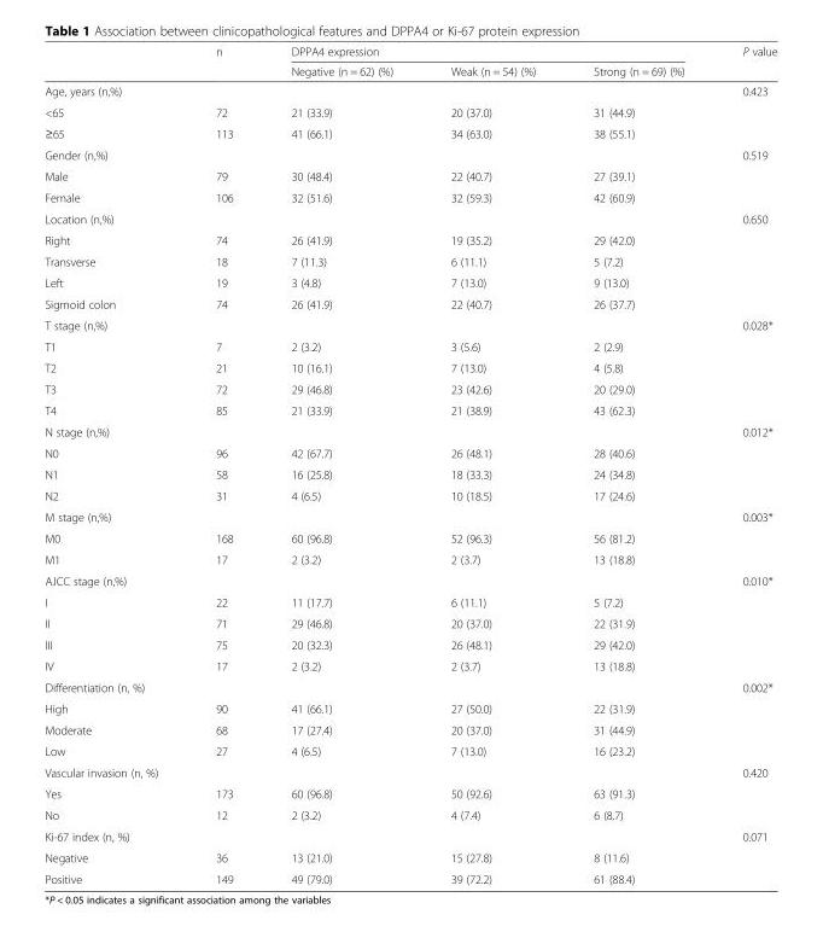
<table><thead><tr><td rowspan="2"></td><td rowspan="2">n</td><td colspan="3">DPPA4 expression</td><td rowspan="2">P value</td></tr><tr><td>Negative (n = 62) (%)</td><td>Weak (n = 54) (%)</td><td>Strong (n = 69) (%)</td></tr></thead><tbody><tr><td>Age, years (n,%)</td><td></td><td></td><td></td><td></td><td>0.423</td></tr><tr><td>&lt;65</td><td>72</td><td>21 (33.9)</td><td>20 (37.0)</td><td>31 (44.9)</td><td></td></tr><tr><td>≥65</td><td>113</td><td>41 (66.1)</td><td>34 (63.0)</td><td>38 (55.1)</td><td></td></tr><tr><td>Gender (n,%)</td><td></td><td></td><td></td><td></td><td>0.519</td></tr><tr><td>Male</td><td>79</td><td>30 (48.4)</td><td>22 (40.7)</td><td>27 (39.1)</td><td></td></tr><tr><td>Female</td><td>106</td><td>32 (51.6)</td><td>32 (59.3)</td><td>42 (60.9)</td><td></td></tr><tr><td>Location (n,%)</td><td></td><td></td><td></td><td></td><td>0.650</td></tr><tr><td>Right</td><td>74</td><td>26 (41.9)</td><td>19 (35.2)</td><td>29 (42.0)</td><td></td></tr><tr><td>Transverse</td><td>18</td><td>7 (11.3)</td><td>6 (11.1)</td><td>5 (7.2)</td><td></td></tr><tr><td>Left</td><td>19</td><td>3 (4.8)</td><td>7 (13.0)</td><td>9 (13.0)</td><td></td></tr><tr><td>Sigmoid colon</td><td>74</td><td>26 (41.9)</td><td>22 (40.7)</td><td>26 (37.7)</td><td></td></tr><tr><td>T stage (n,%)</td><td></td><td></td><td></td><td></td><td>0.028*</td></tr><tr><td>T1</td><td>7</td><td>2 (3.2)</td><td>3 (5.6)</td><td>2 (2.9)</td><td></td></tr><tr><td>T2</td><td>21</td><td>10 (16.1)</td><td>7 (13.0)</td><td>4 (5.8)</td><td></td></tr><tr><td>T3</td><td>72</td><td>29 (46.8)</td><td>23 (42.6)</td><td>20 (29.0)</td><td></td></tr><tr><td>T4</td><td>85</td><td>21 (33.9)</td><td>21 (38.9)</td><td>43 (62.3)</td><td></td></tr><tr><td>N stage (n,%)</td><td></td><td></td><td></td><td></td><td>0.012*</td></tr><tr><td>N0</td><td>96</td><td>42 (67.7)</td><td>26 (48.1)</td><td>28 (40.6)</td><td></td></tr><tr><td>N1</td><td>58</td><td>16 (25.8)</td><td>18 (33.3)</td><td>24 (34.8)</td><td></td></tr><tr><td>N2</td><td>31</td><td>4 (6.5)</td><td>10 (18.5)</td><td>17 (24.6)</td><td></td></tr><tr><td>M stage (n,%)</td><td></td><td></td><td></td><td></td><td>0.003*</td></tr><tr><td>M0</td><td>168</td><td>60 (96.8)</td><td>52 (96.3)</td><td>56 (81.2)</td><td></td></tr><tr><td>M1</td><td>17</td><td>2 (3.2)</td><td>2 (3.7)</td><td>13 (18.8)</td><td></td></tr><tr><td>AJCC stage (n,%)</td><td></td><td></td><td></td><td></td><td>0.010*</td></tr><tr><td>I</td><td>22</td><td>11 (17.7)</td><td>6 (11.1)</td><td>5 (7.2)</td><td></td></tr><tr><td>II</td><td>71</td><td>29 (46.8)</td><td>20 (37.0)</td><td>22 (31.9)</td><td></td></tr><tr><td>III</td><td>75</td><td>20 (32.3)</td><td>26 (48.1)</td><td>29 (42.0)</td><td></td></tr><tr><td>IV</td><td>17</td><td>2 (3.2)</td><td>2 (3.7)</td><td>13 (18.8)</td><td></td></tr><tr><td>Differentiation (n, %)</td><td></td><td></td><td></td><td></td><td>0.002*</td></tr><tr><td>High</td><td>90</td><td>41 (66.1)</td><td>27 (50.0)</td><td>22 (31.9)</td><td></td></tr><tr><td>Moderate</td><td>68</td><td>17 (27.4)</td><td>20 (37.0)</td><td>31 (44.9)</td><td></td></tr><tr><td>Low</td><td>27</td><td>4 (6.5)</td><td>7 (13.0)</td><td>16 (23.2)</td><td></td></tr><tr><td>Vascular invasion (n, %)</td><td></td><td></td><td></td><td></td><td>0.420</td></tr><tr><td>Yes</td><td>173</td><td>60 (96.8)</td><td>50 (92.6)</td><td>63 (91.3)</td><td></td></tr><tr><td>No</td><td>12</td><td>2 (3.2)</td><td>4 (7.4)</td><td>6 (8.7)</td><td></td></tr><tr><td>Ki-67 index (n, %)</td><td></td><td></td><td></td><td></td><td>0.071</td></tr><tr><td>Negative</td><td>36</td><td>13 (21.0)</td><td>15 (27.8)</td><td>8 (11.6)</td><td></td></tr><tr><td>Positive</td><td>149</td><td>49 (79.0)</td><td>39 (72.2)</td><td>61 (88.4)</td><td></td></tr></tbody></table>